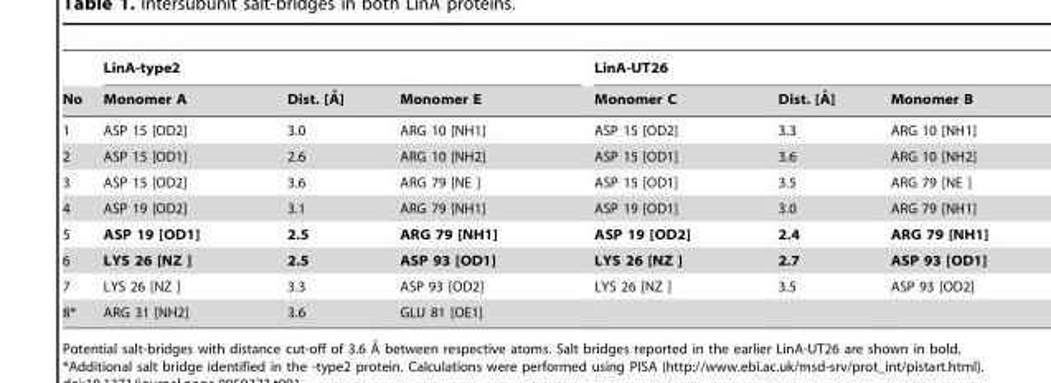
<table><thead><tr><td rowspan="2">No</td><td colspan="3">LinA-type2</td><td colspan="3">LinA-UT26</td></tr><tr><td>Monomer A</td><td>Dist. [A˚ ]</td><td>Monomer E</td><td>Monomer C</td><td>Dist. [A˚ ]</td><td>Monomer B</td></tr></thead><tbody><tr><td>1</td><td>ASP 15 [OD2]</td><td>3.0</td><td>ARG 10 [NH1]</td><td>ASP 15 [OD2]</td><td>3.3</td><td>ARG 10 [NH1]</td></tr><tr><td>2</td><td>ASP 15 [OD1]</td><td>2.6</td><td>ARG 10 [NH2]</td><td>ASP 15 [OD1]</td><td>3.6</td><td>ARG 10 [NH2]</td></tr><tr><td>3</td><td>ASP 15 [OD2]</td><td>3.6</td><td>ARG 79 [NE ]</td><td>ASP 15 [OD1]</td><td>3.5</td><td>ARG 79 [NE ]</td></tr><tr><td>4</td><td>ASP 19 [OD2]</td><td>3.1</td><td>ARG 79 [NH1]</td><td>ASP 19 [OD1]</td><td>3.0</td><td>ARG 79 [NH1]</td></tr><tr><td>5</td><td>ASP 19 [OD1]</td><td>2.5</td><td>ARG 79 [NH1]</td><td>ASP 19 [OD2]</td><td>2.4</td><td>ARG 79 [NH1]</td></tr><tr><td>6</td><td>LYS 26 [NZ ]</td><td>2.5</td><td>ASP 93 [OD1]</td><td>LYS 26 [NZ ]</td><td>2.7</td><td>ASP 93 [OD1]</td></tr><tr><td>7</td><td>LYS 26 [NZ ]</td><td>3.3</td><td>ASP 93 [OD2]</td><td>LYS 26 [NZ ]</td><td>3.5</td><td>ASP 93 [OD2]</td></tr><tr><td>8*</td><td>ARG 31 [NH2]</td><td>3.6</td><td>GLU 81 [OE1]</td><td></td><td></td><td></td></tr></tbody></table>